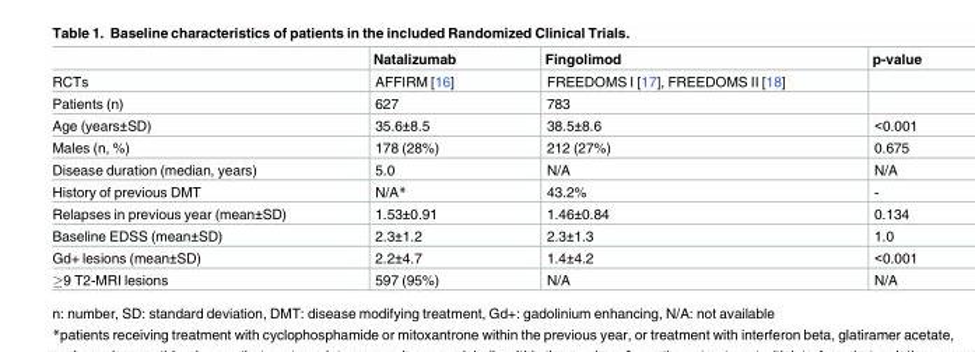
<table><thead><tr><td></td><td>Natalizumab</td><td>Fingolimod</td><td>p-value</td></tr></thead><tbody><tr><td>RCTs</td><td>AFFIRM [16]</td><td>FREEDOMS I [17], FREEDOMS II [18]</td><td></td></tr><tr><td>Patients (n)</td><td>627</td><td>783</td><td></td></tr><tr><td>Age (years±SD)</td><td>35.6±8.5</td><td>38.5±8.6</td><td>&lt;0.001</td></tr><tr><td>Males (n, %)</td><td>178 (28%)</td><td>212 (27%)</td><td>0.675</td></tr><tr><td>Disease duration (median, years)</td><td>5.0</td><td>N/A</td><td>N/A</td></tr><tr><td>History of previous DMT</td><td>N/A*</td><td>43.2%</td><td>-</td></tr><tr><td>Relapses in previous year (mean±SD)</td><td>1.53±0.91</td><td>1.46±0.84</td><td>0.134</td></tr><tr><td>Baseline EDSS (mean±SD)</td><td>2.3±1.2</td><td>2.3±1.3</td><td>1.0</td></tr><tr><td>Gd+ lesions (mean±SD)</td><td>2.2±4.7</td><td>1.4±4.2</td><td>&lt;0.001</td></tr><tr><td>≥9 T2-MRI lesions</td><td>597 (95%)</td><td>N/A</td><td>N/A</td></tr></tbody></table>